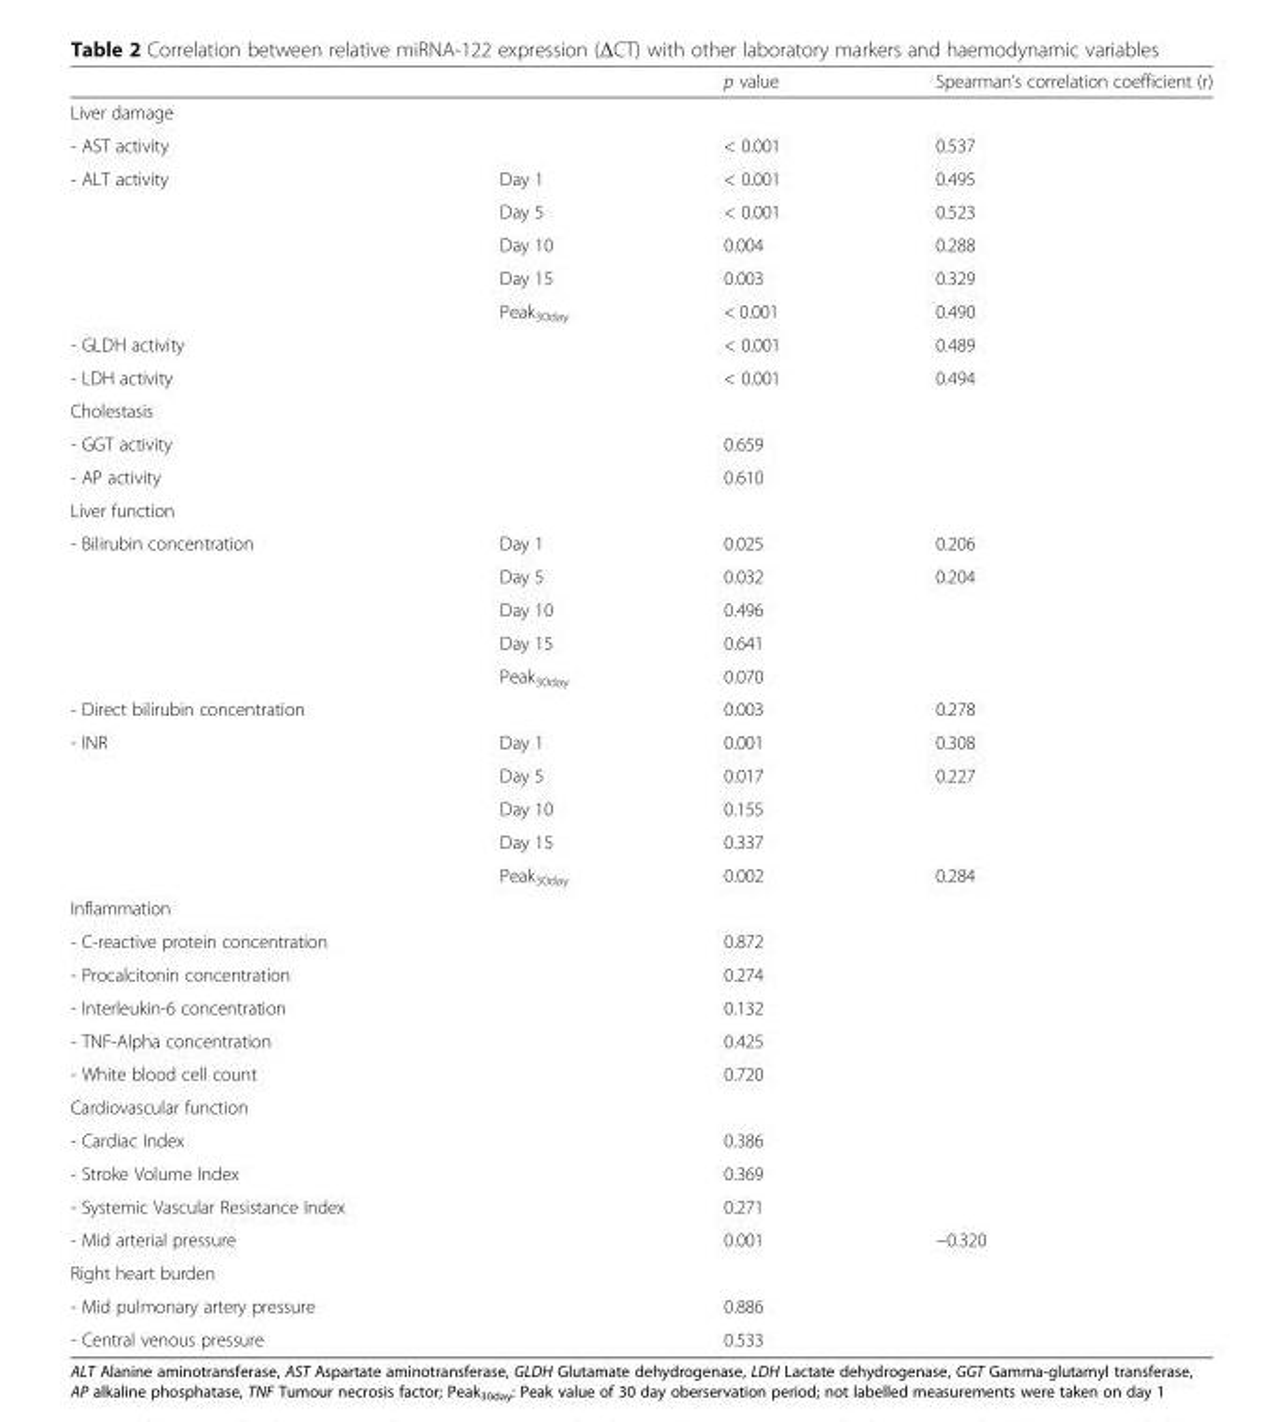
<table><thead><tr><td></td><td></td><td>p value</td><td>Spearman’s correlation coefficient (r)</td></tr></thead><tbody><tr><td colspan="4">Liver damage</td></tr><tr><td>- AST activity</td><td></td><td>&lt; 0.001</td><td>0.537</td></tr><tr><td rowspan="5">- ALT activity</td><td>Day 1</td><td>&lt; 0.001</td><td>0.495</td></tr><tr><td>Day 5</td><td>&lt; 0.001</td><td>0.523</td></tr><tr><td>Day 10</td><td>0.004</td><td>0.288</td></tr><tr><td>Day 15</td><td>0.003</td><td>0.329</td></tr><tr><td>Peak<sub>30day</sub></td><td>&lt; 0.001</td><td>0.490</td></tr><tr><td>- GLDH activity</td><td></td><td>&lt; 0.001</td><td>0.489</td></tr><tr><td>- LDH activity</td><td></td><td>&lt; 0.001</td><td>0.494</td></tr><tr><td colspan="4">Cholestasis</td></tr><tr><td>- GGT activity</td><td></td><td>0.659</td><td></td></tr><tr><td>- AP activity</td><td></td><td>0.610</td><td></td></tr><tr><td colspan="4">Liver function</td></tr><tr><td rowspan="5">- Bilirubin concentration</td><td>Day 1</td><td>0.025</td><td>0.206</td></tr><tr><td>Day 5</td><td>0.032</td><td>0.204</td></tr><tr><td>Day 10</td><td>0.496</td><td></td></tr><tr><td>Day 15</td><td>0.641</td><td></td></tr><tr><td>Peak<sub>30day</sub></td><td>0.070</td><td></td></tr><tr><td>- Direct bilirubin concentration</td><td></td><td>0.003</td><td>0.278</td></tr><tr><td rowspan="5">- INR</td><td>Day 1</td><td>0.001</td><td>0.308</td></tr><tr><td>Day 5</td><td>0.017</td><td>0.227</td></tr><tr><td>Day 10</td><td>0.155</td><td></td></tr><tr><td>Day 15</td><td>0.337</td><td></td></tr><tr><td>Peak<sub>30day</sub></td><td>0.002</td><td>0.284</td></tr><tr><td colspan="4">Inflammation</td></tr><tr><td>- C-reactive protein concentration</td><td></td><td>0.872</td><td></td></tr><tr><td>- Procalcitonin concentration</td><td></td><td>0.274</td><td></td></tr><tr><td>- Interleukin-6 concentration</td><td></td><td>0.132</td><td></td></tr><tr><td>- TNF-Alpha concentration</td><td></td><td>0.425</td><td></td></tr><tr><td>- White blood cell count</td><td></td><td>0.720</td><td></td></tr><tr><td colspan="4">Cardiovascular function</td></tr><tr><td>- Cardiac Index</td><td></td><td>0.386</td><td></td></tr><tr><td>- Stroke Volume Index</td><td></td><td>0.369</td><td></td></tr><tr><td>- Systemic Vascular Resistance Index</td><td></td><td>0.271</td><td></td></tr><tr><td>- Mid arterial pressure</td><td></td><td>0.001</td><td>−0.320</td></tr><tr><td colspan="4">Right heart burden</td></tr><tr><td>- Mid pulmonary artery pressure</td><td></td><td>0.886</td><td></td></tr><tr><td>- Central venous pressure</td><td></td><td>0.533</td><td></td></tr></tbody></table>